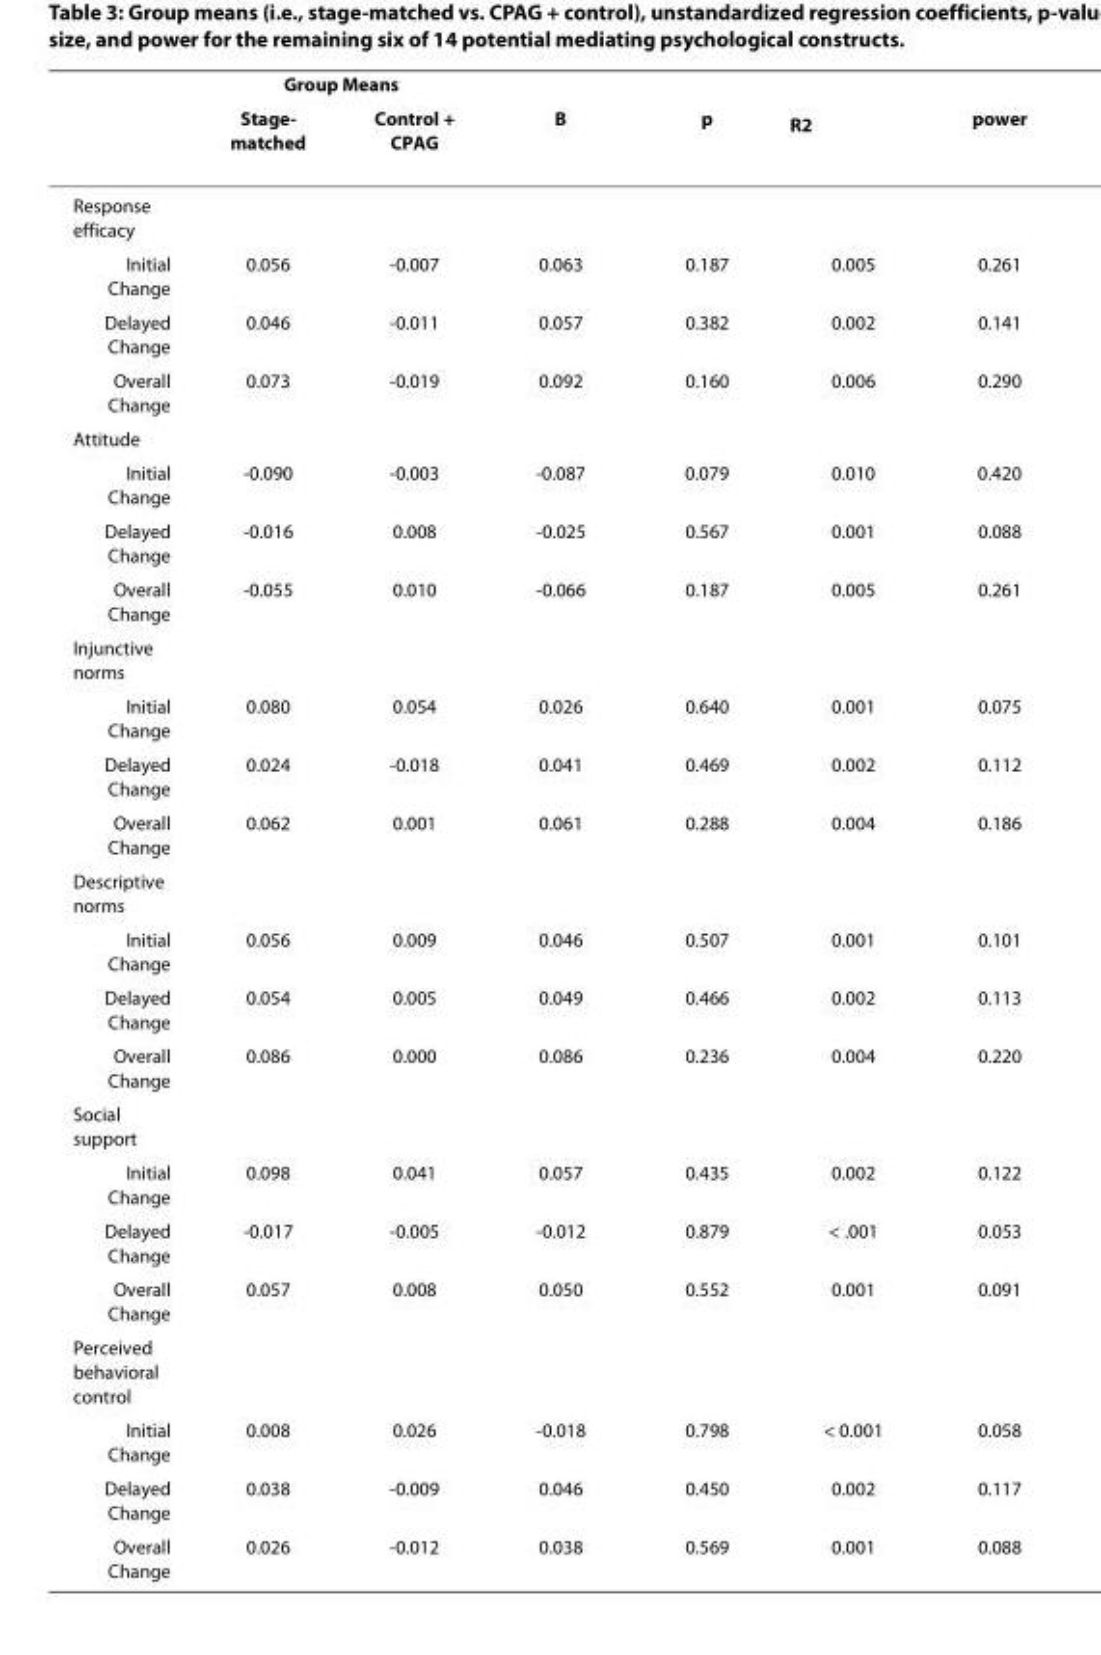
<table><thead><tr><td rowspan="2"></td><td colspan="2">Group Means</td><td rowspan="2">B</td><td rowspan="2">p</td><td rowspan="2">R<sup>2</sup></td><td rowspan="2">power</td></tr><tr><td>Stage- matched</td><td>Control + CPAG</td></tr></thead><tbody><tr><td colspan="7">Response efficacy</td></tr><tr><td>Initial Change</td><td>0.056</td><td>-0.007</td><td>0.063</td><td>0.187</td><td>0.005</td><td>0.261</td></tr><tr><td>Delayed Change</td><td>0.046</td><td>-0.011</td><td>0.057</td><td>0.382</td><td>0.002</td><td>0.141</td></tr><tr><td>Overall Change</td><td>0.073</td><td>-0.019</td><td>0.092</td><td>0.160</td><td>0.006</td><td>0.290</td></tr><tr><td colspan="7">Attitude</td></tr><tr><td>Initial Change</td><td>-0.090</td><td>-0.003</td><td>-0.087</td><td>0.079</td><td>0.010</td><td>0.420</td></tr><tr><td>Delayed Change</td><td>-0.016</td><td>0.008</td><td>-0.025</td><td>0.567</td><td>0.001</td><td>0.088</td></tr><tr><td>Overall Change</td><td>-0.055</td><td>0.010</td><td>-0.066</td><td>0.187</td><td>0.005</td><td>0.261</td></tr><tr><td colspan="7">Injunctive norms</td></tr><tr><td>Initial Change</td><td>0.080</td><td>0.054</td><td>0.026</td><td>0.640</td><td>0.001</td><td>0.075</td></tr><tr><td>Delayed Change</td><td>0.024</td><td>-0.018</td><td>0.041</td><td>0.469</td><td>0.002</td><td>0.112</td></tr><tr><td>Overall Change</td><td>0.062</td><td>0.001</td><td>0.061</td><td>0.288</td><td>0.004</td><td>0.186</td></tr><tr><td colspan="7">Descriptive norms</td></tr><tr><td>Initial Change</td><td>0.056</td><td>0.009</td><td>0.046</td><td>0.507</td><td>0.001</td><td>0.101</td></tr><tr><td>Delayed Change</td><td>0.054</td><td>0.005</td><td>0.049</td><td>0.466</td><td>0.002</td><td>0.113</td></tr><tr><td>Overall Change</td><td>0.086</td><td>0.000</td><td>0.086</td><td>0.236</td><td>0.004</td><td>0.220</td></tr><tr><td colspan="7">Social support</td></tr><tr><td>Initial Change</td><td>0.098</td><td>0.041</td><td>0.057</td><td>0.435</td><td>0.002</td><td>0.122</td></tr><tr><td>Delayed Change</td><td>-0.017</td><td>-0.005</td><td>-0.012</td><td>0.879</td><td>&lt; .001</td><td>0.053</td></tr><tr><td>Overall Change</td><td>0.057</td><td>0.008</td><td>0.050</td><td>0.552</td><td>0.001</td><td>0.091</td></tr><tr><td colspan="7">Perceived behavioral control</td></tr><tr><td>Initial Change</td><td>0.008</td><td>0.026</td><td>-0.018</td><td>0.798</td><td>&lt; 0.001</td><td>0.058</td></tr><tr><td>Delayed Change</td><td>0.038</td><td>-0.009</td><td>0.046</td><td>0.450</td><td>0.002</td><td>0.117</td></tr><tr><td>Overall Change</td><td>0.026</td><td>-0.012</td><td>0.038</td><td>0.569</td><td>0.001</td><td>0.088</td></tr></tbody></table>